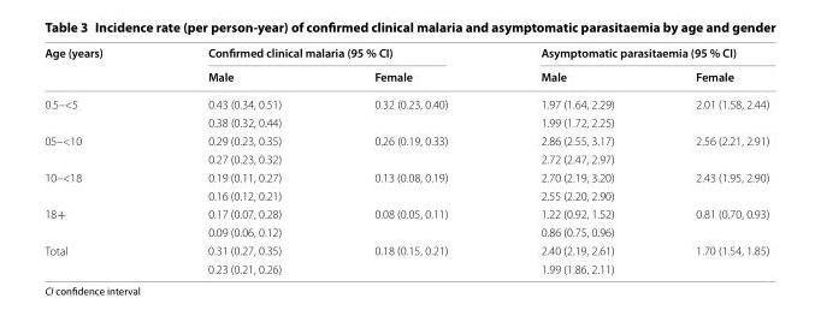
<table><thead><tr><td rowspan="2">Age (years)</td><td colspan="2">Confirmed clinical malaria (95 % CI)</td><td colspan="2">Asymptomatic parasitaemia (95 % CI)</td></tr><tr><td>Male</td><td>Female</td><td>Male</td><td>Female</td></tr></thead><tbody><tr><td rowspan="2">0.5–&lt;5</td><td>0.43 (0.34, 0.51)</td><td>0.32 (0.23, 0.40)</td><td>1.97 (1.64, 2.29)</td><td>2.01 (1.58, 2.44)</td></tr><tr><td colspan="2">0.38 (0.32, 0.44)</td><td colspan="2">1.99 (1.72, 2.25)</td></tr><tr><td rowspan="2">05–&lt;10</td><td>0.29 (0.23, 0.35)</td><td>0.26 (0.19, 0.33)</td><td>2.86 (2.55, 3.17)</td><td>2.56 (2.21, 2.91)</td></tr><tr><td colspan="2">0.27 (0.23, 0.32)</td><td colspan="2">2.72 (2.47, 2.97)</td></tr><tr><td rowspan="2">10–&lt;18</td><td>0.19 (0.11, 0.27)</td><td>0.13 (0.08, 0.19)</td><td>2.70 (2.19, 3.20)</td><td>2.43 (1.95, 2.90)</td></tr><tr><td colspan="2">0.16 (0.12, 0.21)</td><td colspan="2">2.55 (2.20, 2.90)</td></tr><tr><td rowspan="2">18+</td><td>0.17 (0.07, 0.28)</td><td>0.08 (0.05, 0.11)</td><td>1.22 (0.92, 1.52)</td><td>0.81 (0.70, 0.93)</td></tr><tr><td colspan="2">0.09 (0.06, 0.12)</td><td colspan="2">0.86 (0.75, 0.96)</td></tr><tr><td rowspan="2">Total</td><td>0.31 (0.27, 0.35)</td><td>0.18 (0.15, 0.21)</td><td>2.40 (2.19, 2.61)</td><td>1.70 (1.54, 1.85)</td></tr><tr><td colspan="2">0.23 (0.21, 0.26)</td><td colspan="2">1.99 (1.86, 2.11)</td></tr></tbody></table>